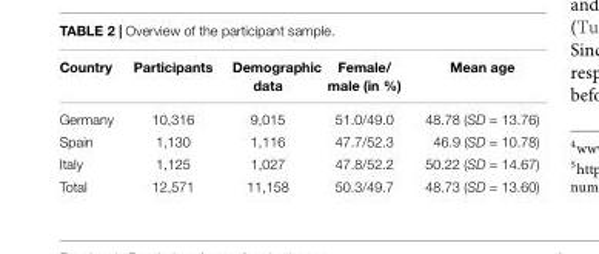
<table><thead><tr><td>Country</td><td>Participants</td><td>Demographic data</td><td>Female/ male (in %)</td><td>Mean age</td></tr></thead><tbody><tr><td>Germany</td><td>10,316</td><td>9,015</td><td>51.0/49.0</td><td>48.78 (SD = 13.76)</td></tr><tr><td>Spain</td><td>1,130</td><td>1,116</td><td>47.7/52.3</td><td>46.9 (SD = 10.78)</td></tr><tr><td>Italy</td><td>1,125</td><td>1,027</td><td>47.8/52.2</td><td>50.22 (SD = 14.67)</td></tr><tr><td>Total</td><td>12,571</td><td>11,158</td><td>50.3/49.7</td><td>48.73 (SD = 13.60)</td></tr></tbody></table>